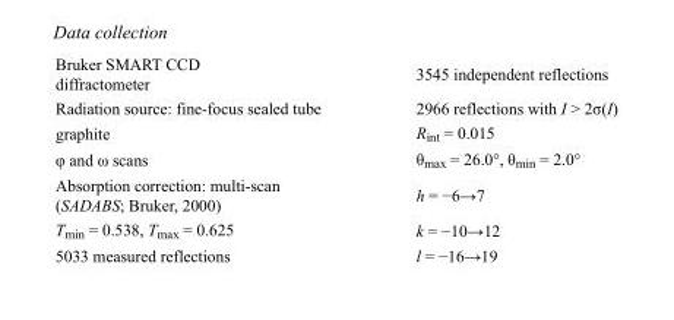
<table><tbody><tr><td>Bruker SMART CCD diffractometer</td><td>3545 independent reflections</td></tr><tr><td>Radiation source: fine-focus sealed tube</td><td>2966 reflections with I &gt; 2σ(I)</td></tr><tr><td>graphite</td><td>R<sub>int</sub> = 0.015</td></tr><tr><td>φ and ω scans</td><td>θ<sub>max</sub> = 26.0°, θ<sub>min</sub> = 2.0°</td></tr><tr><td>Absorption correction: multi-scan (SADABS; Bruker, 2000)</td><td>h = −6→7</td></tr><tr><td>T<sub>min</sub> = 0.538, T<sub>max</sub> = 0.625</td><td>k = −10→12</td></tr><tr><td>5033 measured reflections</td><td>l = −16→19</td></tr></tbody></table>